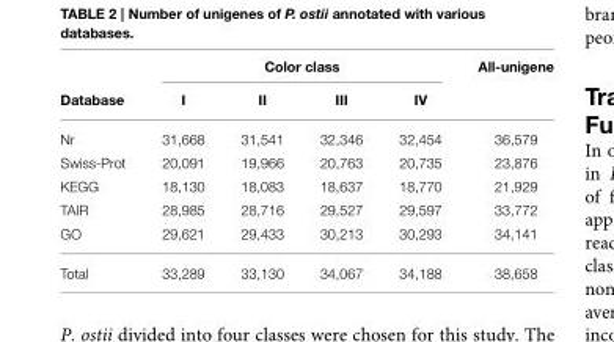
<table><thead><tr><td rowspan="2">Database</td><td colspan="4">Color class</td><td rowspan="2">All-unigene</td></tr><tr><td>I</td><td>II</td><td>III</td><td>IV</td></tr></thead><tbody><tr><td>Nr</td><td>31,668</td><td>31,541</td><td>32,346</td><td>32,454</td><td>36,579</td></tr><tr><td>Swiss-Prot</td><td>20,091</td><td>19,966</td><td>20,763</td><td>20,735</td><td>23,876</td></tr><tr><td>KEGG</td><td>18,130</td><td>18,083</td><td>18,637</td><td>18,770</td><td>21,929</td></tr><tr><td>TAIR</td><td>28,985</td><td>28,716</td><td>29,527</td><td>29,597</td><td>33,772</td></tr><tr><td>GO</td><td>29,621</td><td>29,433</td><td>30,213</td><td>30,293</td><td>34,141</td></tr><tr><td>Total</td><td>33,289</td><td>33,130</td><td>34,067</td><td>34,188</td><td>38,658</td></tr></tbody></table>